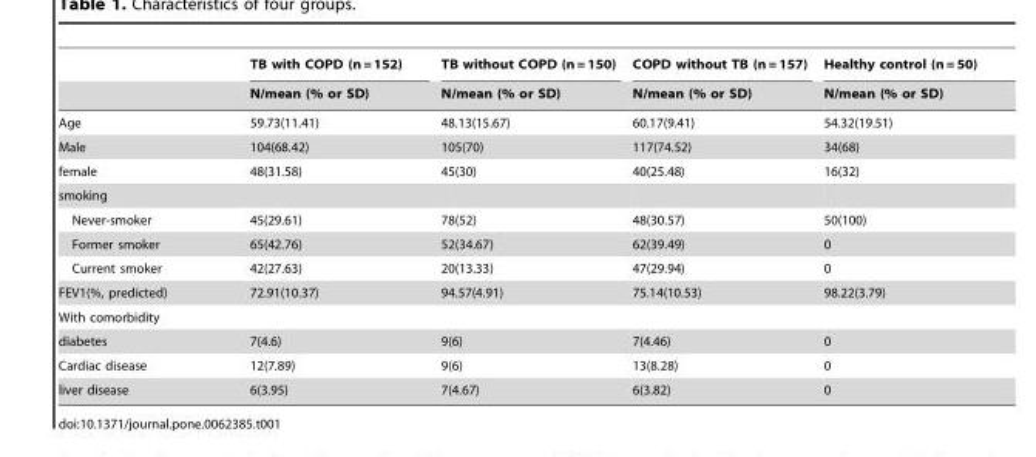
<table><thead><tr><td rowspan="2"></td><td rowspan="2">TB with COPD (n = 152) N/mean (% or SD)</td><td rowspan="2">TB without COPD (n = 150) N/mean (% or SD)</td><td rowspan="2">COPD without TB (n = 157) N/mean (% or SD)</td><td rowspan="2">Healthy control (n = 50) N/mean (% or SD)</td></tr><tr></tr></thead><tbody><tr><td>Age</td><td>59.73(11.41)</td><td>48.13(15.67)</td><td>60.17(9.41)</td><td>54.32(19.51)</td></tr><tr><td>Male</td><td>104(68.42)</td><td>105(70)</td><td>117(74.52)</td><td>34(68)</td></tr><tr><td>female</td><td>48(31.58)</td><td>45(30)</td><td>40(25.48)</td><td>16(32)</td></tr><tr><td colspan="5">smoking</td></tr><tr><td>Never-smoker</td><td>45(29.61)</td><td>78(52)</td><td>48(30.57)</td><td>50(100)</td></tr><tr><td>Former smoker</td><td>65(42.76)</td><td>52(34.67)</td><td>62(39.49)</td><td>0</td></tr><tr><td>Current smoker</td><td>42(27.63)</td><td>20(13.33)</td><td>47(29.94)</td><td>0</td></tr><tr><td>FEV1(%, predicted)</td><td>72.91(10.37)</td><td>94.57(4.91)</td><td>75.14(10.53)</td><td>98.22(3.79)</td></tr><tr><td colspan="5">With comorbidity</td></tr><tr><td>diabetes</td><td>7(4.6)</td><td>9(6)</td><td>7(4.46)</td><td>0</td></tr><tr><td>Cardiac disease</td><td>12(7.89)</td><td>9(6)</td><td>13(8.28)</td><td>0</td></tr><tr><td>liver disease</td><td>6(3.95)</td><td>7(4.67)</td><td>6(3.82)</td><td>0</td></tr></tbody></table>